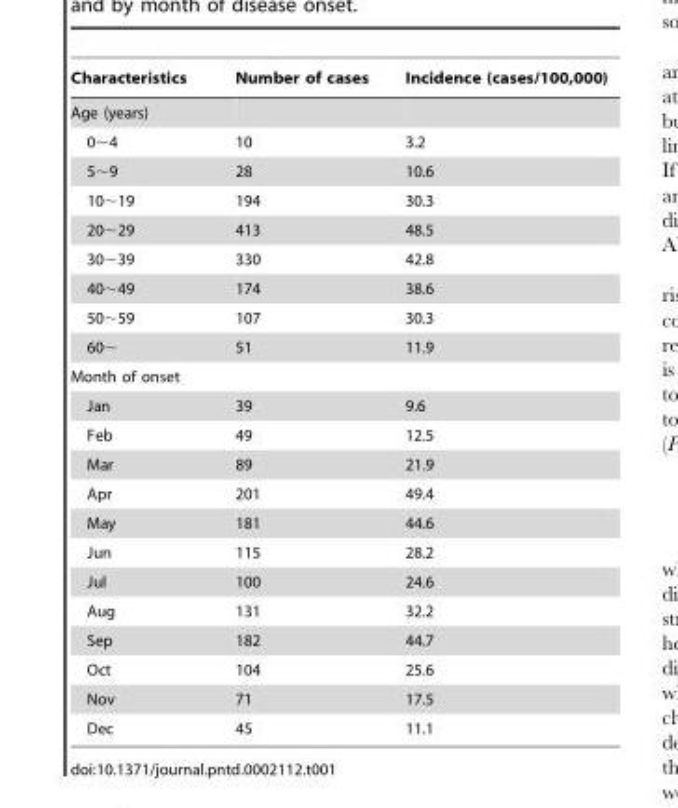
<table><thead><tr><td>Characteristics</td><td>Number of cases</td><td>Incidence (cases/100,000)</td></tr></thead><tbody><tr><td colspan="3">Age (years)</td></tr><tr><td>0∼4</td><td>10</td><td>3.2</td></tr><tr><td>5∼9</td><td>28</td><td>10.6</td></tr><tr><td>10∼19</td><td>194</td><td>30.3</td></tr><tr><td>20∼29</td><td>413</td><td>48.5</td></tr><tr><td>30∼39</td><td>330</td><td>42.8</td></tr><tr><td>40∼49</td><td>174</td><td>38.6</td></tr><tr><td>50∼59</td><td>107</td><td>30.3</td></tr><tr><td>60∼</td><td>51</td><td>11.9</td></tr><tr><td colspan="3">Month of onset</td></tr><tr><td>Jan</td><td>39</td><td>9.6</td></tr><tr><td>Feb</td><td>49</td><td>12.5</td></tr><tr><td>Mar</td><td>89</td><td>21.9</td></tr><tr><td>Apr</td><td>201</td><td>49.4</td></tr><tr><td>May</td><td>181</td><td>44.6</td></tr><tr><td>Jun</td><td>115</td><td>28.2</td></tr><tr><td>Jul</td><td>100</td><td>24.6</td></tr><tr><td>Aug</td><td>131</td><td>32.2</td></tr><tr><td>Sep</td><td>182</td><td>44.7</td></tr><tr><td>Oct</td><td>104</td><td>25.6</td></tr><tr><td>Nov</td><td>71</td><td>17.5</td></tr><tr><td>Dec</td><td>45</td><td>11.1</td></tr></tbody></table>